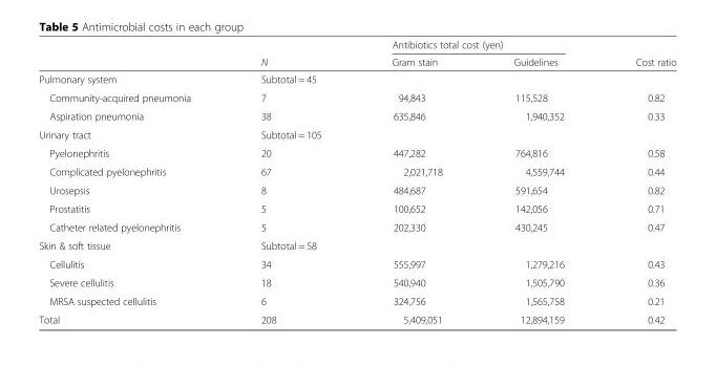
<table><thead><tr><td rowspan="2"></td><td rowspan="2">N</td><td colspan="2">Antibiotics total cost (yen)</td><td rowspan="2">Cost ratio</td></tr><tr><td>Gram stain</td><td>Guidelines</td></tr></thead><tbody><tr><td>Pulmonary system</td><td>Subtotal = 45</td><td></td><td></td><td></td></tr><tr><td>Community-acquired pneumonia</td><td>7</td><td>94,843</td><td>115,528</td><td>0.82</td></tr><tr><td>Aspiration pneumonia</td><td>38</td><td>635,846</td><td>1,940,352</td><td>0.33</td></tr><tr><td>Urinary tract</td><td>Subtotal = 105</td><td></td><td></td><td></td></tr><tr><td>Pyelonephritis</td><td>20</td><td>447,282</td><td>764,816</td><td>0.58</td></tr><tr><td>Complicated pyelonephritis</td><td>67</td><td>2,021,718</td><td>4,559,744</td><td>0.44</td></tr><tr><td>Urosepsis</td><td>8</td><td>484,687</td><td>591,654</td><td>0.82</td></tr><tr><td>Prostatitis</td><td>5</td><td>100,652</td><td>142,056</td><td>0.71</td></tr><tr><td>Catheter related pyelonephritis</td><td>5</td><td>202,330</td><td>430,245</td><td>0.47</td></tr><tr><td>Skin &amp; soft tissue</td><td>Subtotal = 58</td><td></td><td></td><td></td></tr><tr><td>Cellulitis</td><td>34</td><td>555,997</td><td>1,279,216</td><td>0.43</td></tr><tr><td>Severe cellulitis</td><td>18</td><td>540,940</td><td>1,505,790</td><td>0.36</td></tr><tr><td>MRSA suspected cellulitis</td><td>6</td><td>324,756</td><td>1,565,758</td><td>0.21</td></tr><tr><td>Total</td><td>208</td><td>5,409,051</td><td>12,894,159</td><td>0.42</td></tr></tbody></table>